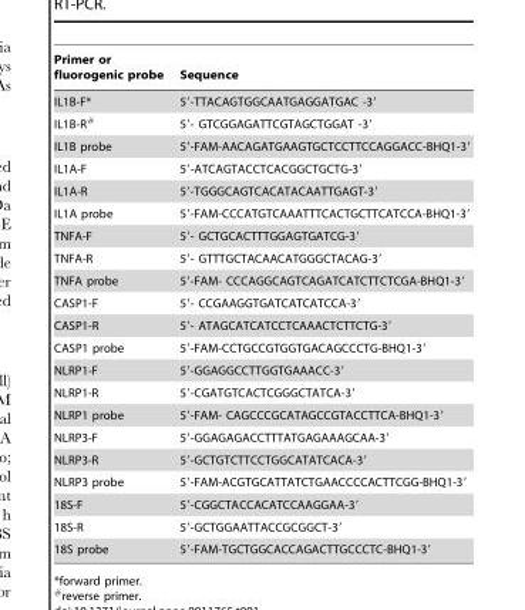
<table><thead><tr><td>Primer or fluorogenic probe</td><td>Sequence</td></tr></thead><tbody><tr><td>IL1B-F*</td><td>5′-TTACAGTGGCAATGAGGATGAC -3′</td></tr><tr><td>IL1B-R#</td><td>5′- GTCGGAGATTCGTAGCTGGAT -3′</td></tr><tr><td>IL1B probe</td><td>5′-FAM-AACAGATGAAGTGCTCCTTCCAGGACC-BHQ1-3′</td></tr><tr><td>IL1A-F</td><td>5′-ATCAGTACCTCACGGCTGCTG-3′</td></tr><tr><td>IL1A-R</td><td>5′-TGGGCAGTCACATACAATTGAGT-3′</td></tr><tr><td>IL1A probe</td><td>5′-FAM-CCCATGTCAAATTTCACTGCTTCATCCA-BHQ1-3′</td></tr><tr><td>TNFA-F</td><td>5′- GCTGCACTTTGGAGTGATCG-3′</td></tr><tr><td>TNFA-R</td><td>5′- GTTTGCTACAACATGGGCTACAG-3′</td></tr><tr><td>TNFA probe</td><td>5′-FAM- CCCAGGCAGTCAGATCATCTTCTCGA-BHQ1-3′</td></tr><tr><td>CASP1-F</td><td>5′- CCGAAGGTGATCATCATCCA-3′</td></tr><tr><td>CASP1-R</td><td>5′- ATAGCATCATCCTCAAACTCTTCTG-3′</td></tr><tr><td>CASP1 probe</td><td>5′-FAM-CCTGCCGTGGTGACAGCCCTG-BHQ1-3′</td></tr><tr><td>NLRP1-F</td><td>5′-GGAGGCCTTGGTGAAACC-3′</td></tr><tr><td>NLRP1-R</td><td>5′-CGATGTCACTCGGGCTATCA-3′</td></tr><tr><td>NLRP1 probe</td><td>5′-FAM- CAGCCCGCATAGCCGTACCTTCA-BHQ1-3′</td></tr><tr><td>NLRP3-F</td><td>5′-GGAGAGACCTTTATGAGAAAGCAA-3′</td></tr><tr><td>NLRP3-R</td><td>5′-GCTGTCTTCCTGGCATATCACA-3′</td></tr><tr><td>NLRP3 probe</td><td>5′-FAM-ACGTGCATTATCTGAACCCCACTTCGG-BHQ1-3′</td></tr><tr><td>18S-F</td><td>5′-CGGCTACCACATCCAAGGAA-3′</td></tr><tr><td>18S-R</td><td>5′-GCTGGAATTACCGCGGCT-3′</td></tr><tr><td>18S probe</td><td>5′-FAM-TGCTGGCACCAGACTTGCCCTC-BHQ1-3′</td></tr></tbody></table>